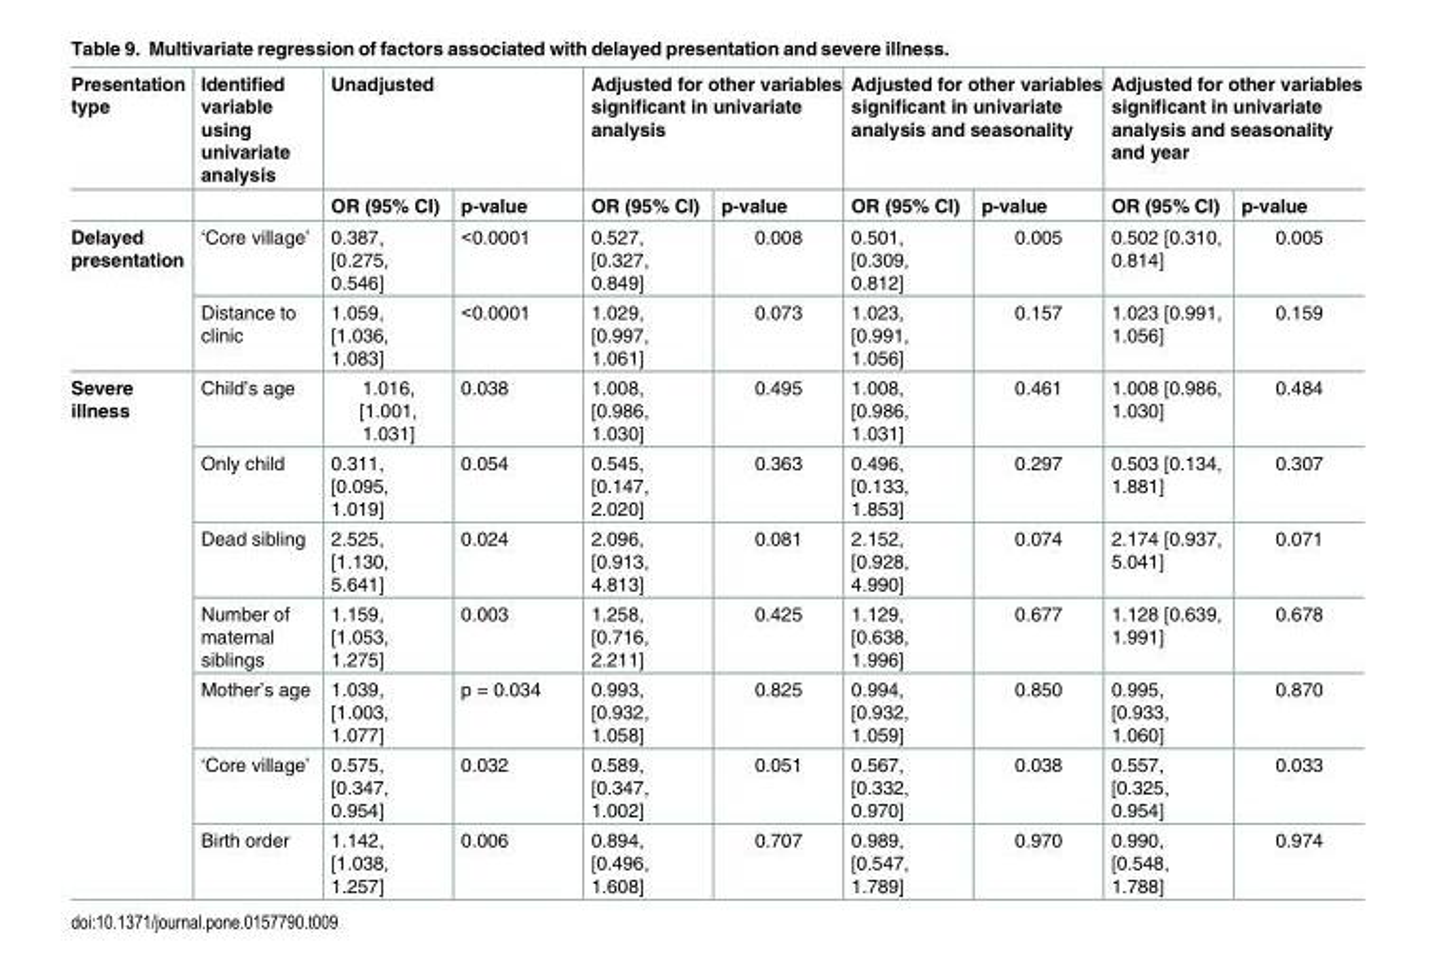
<table><thead><tr><td rowspan="2">Presentation type</td><td rowspan="2">Identified variable using univariate analysis</td><td colspan="2">Unadjusted</td><td colspan="2">Adjusted for other variables significant in univariate analysis</td><td colspan="2">Adjusted for other variables significant in univariate analysis and seasonality</td><td colspan="2">Adjusted for other variables significant in univariate analysis and seasonality and year</td></tr><tr><td>OR (95% CI)</td><td>p-value</td><td>OR (95% CI)</td><td>p-value</td><td>OR (95% CI)</td><td>p-value</td><td>OR (95% CI)</td><td>p-value</td></tr></thead><tbody><tr><td rowspan="2">Delayed presentation</td><td>‘Core village’</td><td>0.387, [0.275, 0.546]</td><td>&lt;0.0001</td><td>0.527, [0.327, 0.849]</td><td>0.008</td><td>0.501, [0.309, 0.812]</td><td>0.005</td><td>0.502 [0.310, 0.814]</td><td>0.005</td></tr><tr><td>Distance to clinic</td><td>1.059, [1.036, 1.083]</td><td>&lt;0.0001</td><td>1.029, [0.997, 1.061]</td><td>0.073</td><td>1.023, [0.991, 1.056]</td><td>0.157</td><td>1.023 [0.991, 1.056]</td><td>0.159</td></tr><tr><td rowspan="7">Severe illness</td><td>Child’s age</td><td>1.016, [1.001, 1.031]</td><td>0.038</td><td>1.008, [0.986, 1.030]</td><td>0.495</td><td>1.008, [0.986, 1.031]</td><td>0.461</td><td>1.008 [0.986, 1.030]</td><td>0.484</td></tr><tr><td>Only child</td><td>0.311, [0.095, 1.019]</td><td>0.054</td><td>0.545, [0.147, 2.020]</td><td>0.363</td><td>0.496, [0.133, 1.853]</td><td>0.297</td><td>0.503 [0.134, 1.881]</td><td>0.307</td></tr><tr><td>Dead sibling</td><td>2.525, [1.130, 5.641]</td><td>0.024</td><td>2.096, [0.913, 4.813]</td><td>0.081</td><td>2.152, [0.928, 4.990]</td><td>0.074</td><td>2.174 [0.937, 5.041]</td><td>0.071</td></tr><tr><td>Number of maternal siblings</td><td>1.159, [1.053, 1.275]</td><td>0.003</td><td>1.258, [0.716, 2.211]</td><td>0.425</td><td>1.129, [0.638, 1.996]</td><td>0.677</td><td>1.128 [0.639, 1.991]</td><td>0.678</td></tr><tr><td>Mother’s age</td><td>1.039, [1.003, 1.077]</td><td>p = 0.034</td><td>0.993, [0.932, 1.058]</td><td>0.825</td><td>0.994, [0.932, 1.059]</td><td>0.850</td><td>0.995, [0.933, 1.060]</td><td>0.870</td></tr><tr><td>‘Core village’</td><td>0.575, [0.347, 0.954]</td><td>0.032</td><td>0.589, [0.347, 1.002]</td><td>0.051</td><td>0.567, [0.332, 0.970]</td><td>0.038</td><td>0.557, [0.325, 0.954]</td><td>0.033</td></tr><tr><td>Birth order</td><td>1.142, [1.038, 1.257]</td><td>0.006</td><td>0.894, [0.496, 1.608]</td><td>0.707</td><td>0.989, [0.547, 1.789]</td><td>0.970</td><td>0.990, [0.548, 1.788]</td><td>0.974</td></tr></tbody></table>